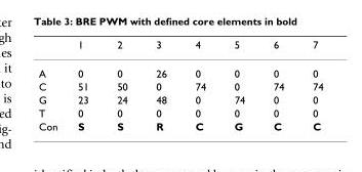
<table><thead><tr><td></td><td>1</td><td>2</td><td>3</td><td>4</td><td>5</td><td>6</td><td>7</td></tr></thead><tbody><tr><td>A</td><td>0</td><td>0</td><td>26</td><td>0</td><td>0</td><td>0</td><td>0</td></tr><tr><td>C</td><td>51</td><td>50</td><td>0</td><td>74</td><td>0</td><td>74</td><td>74</td></tr><tr><td>G</td><td>23</td><td>24</td><td>48</td><td>0</td><td>74</td><td>0</td><td>0</td></tr><tr><td>T</td><td>0</td><td>0</td><td>0</td><td>0</td><td>0</td><td>0</td><td>0</td></tr><tr><td>Con</td><td>S</td><td>S</td><td>R</td><td>C</td><td>G</td><td>C</td><td>C</td></tr></tbody></table>